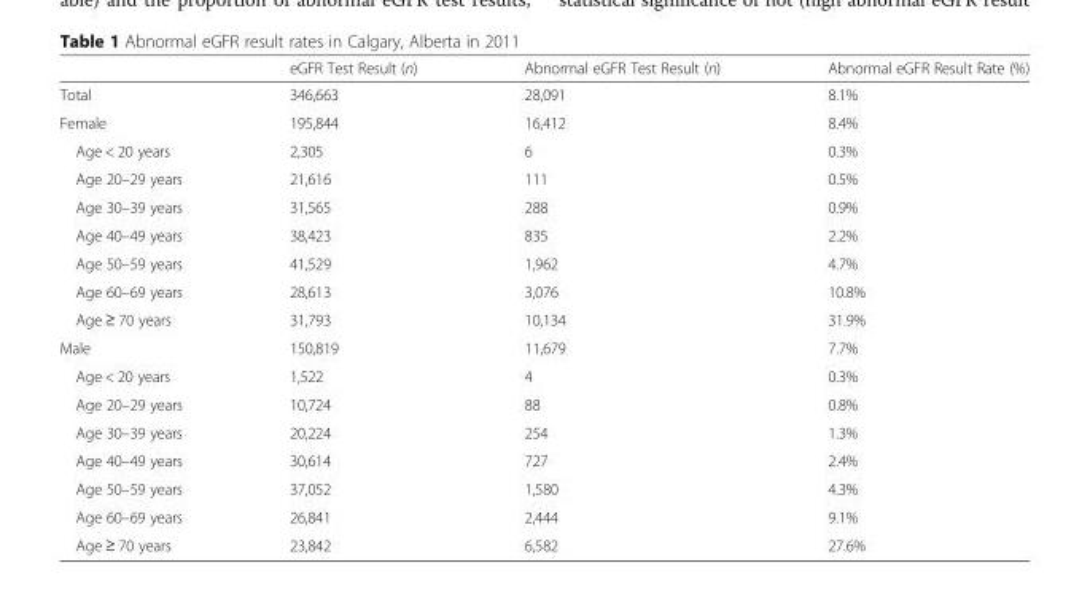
<table><thead><tr><td></td><td>eGFR Test Result (n)</td><td>Abnormal eGFR Test Result (n)</td><td>Abnormal eGFR Result Rate (%)</td></tr></thead><tbody><tr><td>Total</td><td>346,663</td><td>28,091</td><td>8.1%</td></tr><tr><td>Female</td><td>195,844</td><td>16,412</td><td>8.4%</td></tr><tr><td>Age &lt; 20 years</td><td>2,305</td><td>6</td><td>0.3%</td></tr><tr><td>Age 20–29 years</td><td>21,616</td><td>111</td><td>0.5%</td></tr><tr><td>Age 30–39 years</td><td>31,565</td><td>288</td><td>0.9%</td></tr><tr><td>Age 40–49 years</td><td>38,423</td><td>835</td><td>2.2%</td></tr><tr><td>Age 50–59 years</td><td>41,529</td><td>1,962</td><td>4.7%</td></tr><tr><td>Age 60–69 years</td><td>28,613</td><td>3,076</td><td>10.8%</td></tr><tr><td>Age ≥ 70 years</td><td>31,793</td><td>10,134</td><td>31.9%</td></tr><tr><td>Male</td><td>150,819</td><td>11,679</td><td>7.7%</td></tr><tr><td>Age &lt; 20 years</td><td>1,522</td><td>4</td><td>0.3%</td></tr><tr><td>Age 20–29 years</td><td>10,724</td><td>88</td><td>0.8%</td></tr><tr><td>Age 30–39 years</td><td>20,224</td><td>254</td><td>1.3%</td></tr><tr><td>Age 40–49 years</td><td>30,614</td><td>727</td><td>2.4%</td></tr><tr><td>Age 50–59 years</td><td>37,052</td><td>1,580</td><td>4.3%</td></tr><tr><td>Age 60–69 years</td><td>26,841</td><td>2,444</td><td>9.1%</td></tr><tr><td>Age ≥ 70 years</td><td>23,842</td><td>6,582</td><td>27.6%</td></tr></tbody></table>